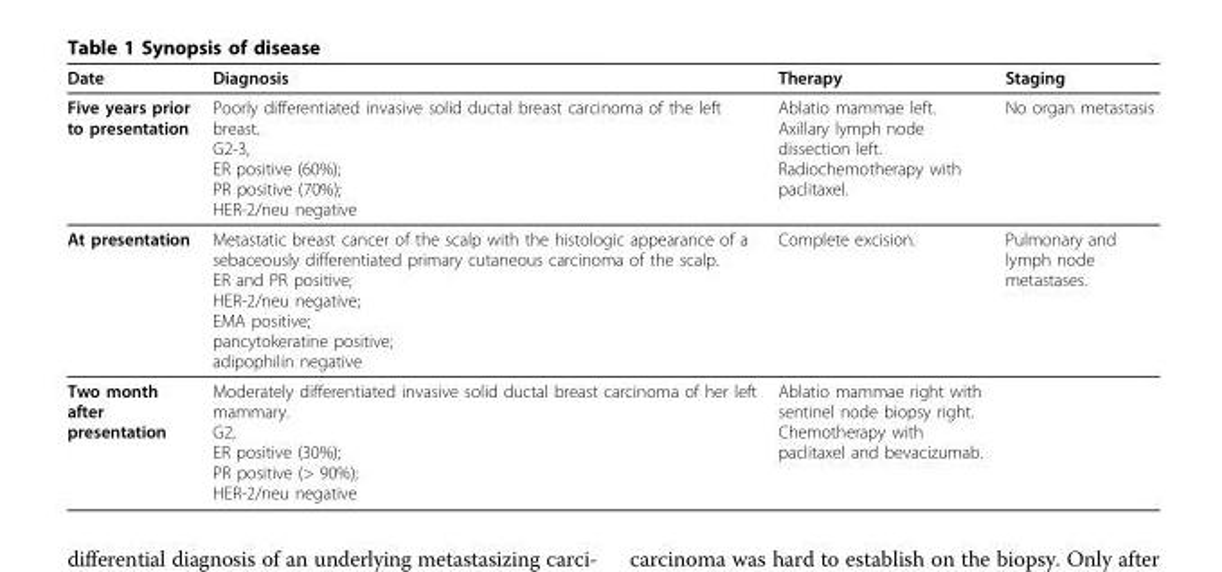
<table><thead><tr><td>Date</td><td>Diagnosis</td><td>Therapy</td><td>Staging</td></tr></thead><tbody><tr><td>Five years prior to presentation</td><td>Poorly differentiated invasive solid ductal breast carcinoma of the left breast. G2-3, ER positive (60%); PR positive (70%); HER-2/neu negative</td><td>Ablatio mammae left. Axillary lymph node dissection left. Radiochemotherapy with paclitaxel.</td><td>No organ metastasis</td></tr><tr><td>At presentation</td><td>Metastatic breast cancer of the scalp with the histologic appearance of a sebaceously differentiated primary cutaneous carcinoma of the scalp. ER and PR positive; HER-2/neu negative; EMA positive; pancytokeratine positive; adipophilin negative</td><td>Complete excision.</td><td>Pulmonary and lymph node metastases.</td></tr><tr><td>Two month after presentation</td><td>Moderately differentiated invasive solid ductal breast carcinoma of her left mammary. G2, ER positive (30%); PR positive (&gt; 90%); HER-2/neu negative</td><td>Ablatio mammae right with sentinel node biopsy right. Chemotherapy with paclitaxel and bevacizumab.</td><td></td></tr></tbody></table>